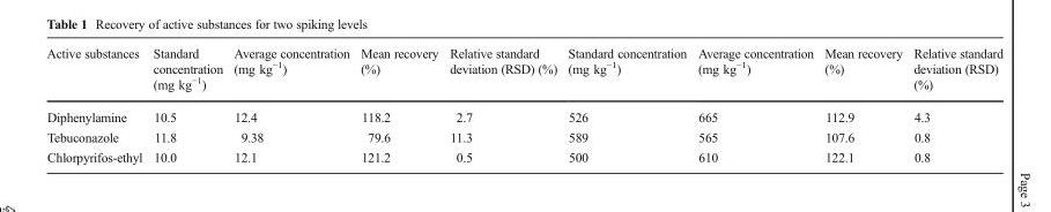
<table><thead><tr><td>Active substances</td><td>Standard concentration (mg kg<sup>−1</sup>)</td><td>Average concentration (mg kg<sup>−1</sup>)</td><td>Mean recovery (%)</td><td>Relative standard deviation (RSD) (%)</td><td>Standard concentration (mg kg<sup>−1</sup>)</td><td>Average concentration (mg kg<sup>−1</sup>)</td><td>Mean recovery (%)</td><td>Relative standard deviation (RSD) (%)</td></tr></thead><tbody><tr><td>Diphenylamine</td><td>10.5</td><td>12.4</td><td>118.2</td><td>2.7</td><td>526</td><td>665</td><td>112.9</td><td>4.3</td></tr><tr><td>Tebuconazole</td><td>11.8</td><td>9.38</td><td>79.6</td><td>11.3</td><td>589</td><td>565</td><td>107.6</td><td>0.8</td></tr><tr><td>Chlorpyrifos-ethyl</td><td>10.0</td><td>12.1</td><td>121.2</td><td>0.5</td><td>500</td><td>610</td><td>122.1</td><td>0.8</td></tr></tbody></table>